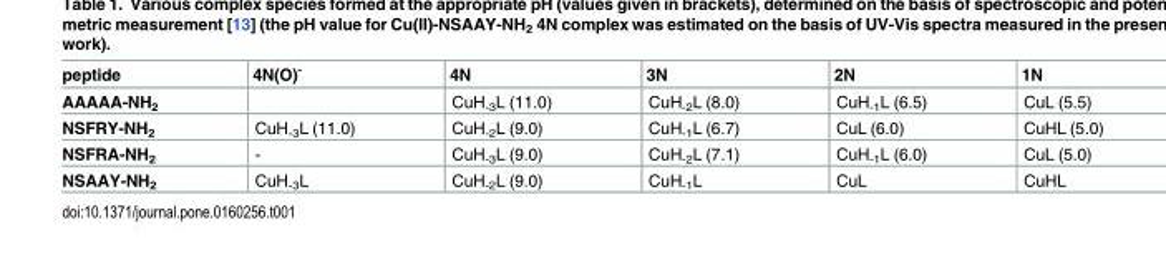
<table><thead><tr><td>peptide</td><td>4N(O)<sup>-</sup></td><td>4N</td><td>3N</td><td>2N</td><td>1N</td></tr></thead><tbody><tr><td>AAAAA-NH<sub>2</sub></td><td></td><td>CuH<sub>-3</sub>L (11.0)</td><td>CuH<sub>-2</sub>L (8.0)</td><td>CuH<sub>-1</sub>L (6.5)</td><td>CuL (5.5)</td></tr><tr><td>NSFRY-NH<sub>2</sub></td><td>CuH<sub>-3</sub>L (11.0)</td><td>CuH<sub>-2</sub>L (9.0)</td><td>CuH<sub>-1</sub>L (6.7)</td><td>CuL (6.0)</td><td>CuHL (5.0)</td></tr><tr><td>NSFRA-NH<sub>2</sub></td><td>-</td><td>CuH<sub>-3</sub>L (9.0)</td><td>CuH<sub>-2</sub>L (7.1)</td><td>CuH<sub>-1</sub>L (6.0)</td><td>CuL (5.0)</td></tr><tr><td>NSAAY-NH<sub>2</sub></td><td>CuH<sub>-3</sub>L</td><td>CuH<sub>-2</sub>L (9.0)</td><td>CuH<sub>-1</sub>L</td><td>CuL</td><td>CuHL</td></tr></tbody></table>